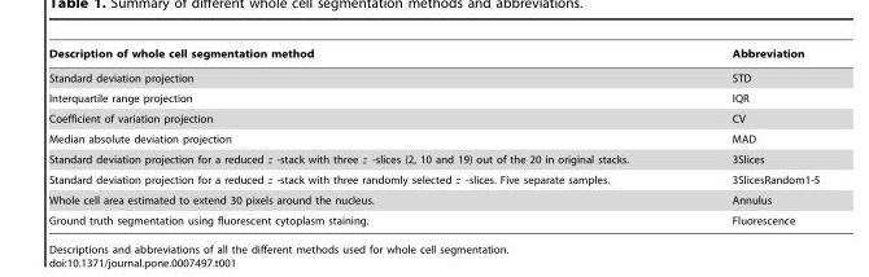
<table><thead><tr><td>Description of whole cell segmentation method</td><td>Abbreviation</td></tr></thead><tbody><tr><td>Standard deviation projection</td><td>STD</td></tr><tr><td>Interquartile range projection</td><td>IQR</td></tr><tr><td>Coefficient of variation projection</td><td>CV</td></tr><tr><td>Median absolute deviation projection</td><td>MAD</td></tr><tr><td>Standard deviation projection for a reduced z -stack with three z -slices (2, 10 and 19) out of the 20 in original stacks.</td><td>3Slices</td></tr><tr><td>Standard deviation projection for a reduced z -stack with three randomly selected z -slices. Five separate samples.</td><td>3SlicesRandom1-5</td></tr><tr><td>Whole cell area estimated to extend 30 pixels around the nucleus.</td><td>Annulus</td></tr><tr><td>Ground truth segmentation using fluorescent cytoplasm staining.</td><td>Fluorescence</td></tr></tbody></table>